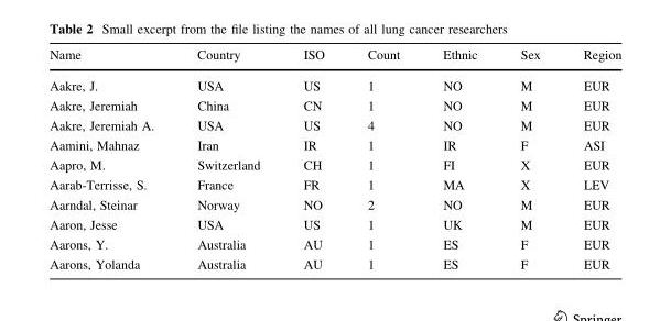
<table><thead><tr><td>Name</td><td>Country</td><td>ISO</td><td>Count</td><td>Ethnic</td><td>Sex</td><td>Region</td></tr></thead><tbody><tr><td>Aakre, J.</td><td>USA</td><td>US</td><td>1</td><td>NO</td><td>M</td><td>EUR</td></tr><tr><td>Aakre, Jeremiah</td><td>China</td><td>CN</td><td>1</td><td>NO</td><td>M</td><td>EUR</td></tr><tr><td>Aakre, Jeremiah A.</td><td>USA</td><td>US</td><td>4</td><td>NO</td><td>M</td><td>EUR</td></tr><tr><td>Aamini, Mahnaz</td><td>Iran</td><td>IR</td><td>1</td><td>IR</td><td>F</td><td>ASI</td></tr><tr><td>Aapro, M.</td><td>Switzerland</td><td>CH</td><td>1</td><td>FI</td><td>X</td><td>EUR</td></tr><tr><td>Aarab-Terrisse, S.</td><td>France</td><td>FR</td><td>1</td><td>MA</td><td>X</td><td>LEV</td></tr><tr><td>Aarndal, Steinar</td><td>Norway</td><td>NO</td><td>2</td><td>NO</td><td>M</td><td>EUR</td></tr><tr><td>Aaron, Jesse</td><td>USA</td><td>US</td><td>1</td><td>UK</td><td>M</td><td>EUR</td></tr><tr><td>Aarons, Y.</td><td>Australia</td><td>AU</td><td>1</td><td>ES</td><td>F</td><td>EUR</td></tr><tr><td>Aarons, Yolanda</td><td>Australia</td><td>AU</td><td>1</td><td>ES</td><td>F</td><td>EUR</td></tr></tbody></table>